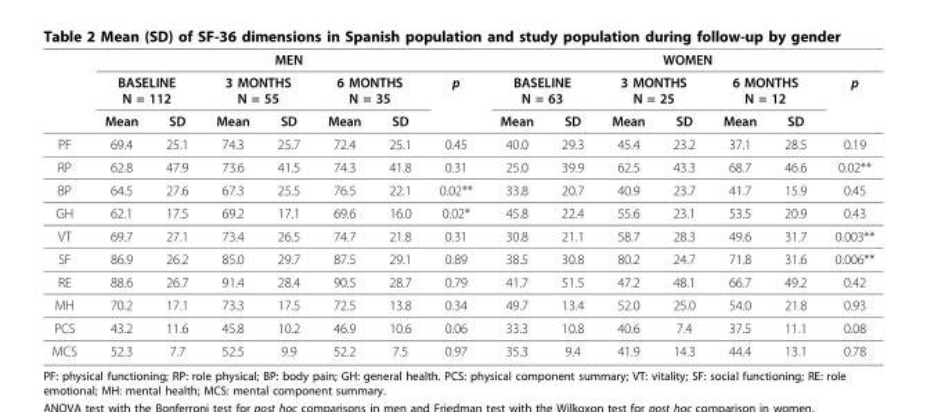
<table><thead><tr><td rowspan="3"></td><td colspan="7">MEN</td><td colspan="7">WOMEN</td></tr><tr><td colspan="2">BASELINE N = 112</td><td colspan="2">3 MONTHS N = 55</td><td colspan="2">6 MONTHS N = 35</td><td rowspan="2">p</td><td colspan="2">BASELINE N = 63</td><td colspan="2">3 MONTHS N = 25</td><td colspan="2">6 MONTHS N = 12</td><td rowspan="2">p</td></tr><tr><td>Mean</td><td>SD</td><td>Mean</td><td>SD</td><td>Mean</td><td>SD</td><td>Mean</td><td>SD</td><td>Mean</td><td>SD</td><td>Mean</td><td>SD</td></tr></thead><tbody><tr><td>PF</td><td>69.4</td><td>25.1</td><td>74.3</td><td>25.7</td><td>72.4</td><td>25.1</td><td>0.45</td><td>40.0</td><td>29.3</td><td>45.4</td><td>23.2</td><td>37.1</td><td>28.5</td><td>0.19</td></tr><tr><td>RP</td><td>62.8</td><td>47.9</td><td>73.6</td><td>41.5</td><td>74.3</td><td>41.8</td><td>0.31</td><td>25.0</td><td>39.9</td><td>62.5</td><td>43.3</td><td>68.7</td><td>46.6</td><td>0.02**</td></tr><tr><td>BP</td><td>64.5</td><td>27.6</td><td>67.3</td><td>25.5</td><td>76.5</td><td>22.1</td><td>0.02**</td><td>33.8</td><td>20.7</td><td>40.9</td><td>23.7</td><td>41.7</td><td>15.9</td><td>0.45</td></tr><tr><td>GH</td><td>62.1</td><td>17.5</td><td>69.2</td><td>17.1</td><td>69.6</td><td>16.0</td><td>0.02*</td><td>45.8</td><td>22.4</td><td>55.6</td><td>23.1</td><td>53.5</td><td>20.9</td><td>0.43</td></tr><tr><td>VT</td><td>69.7</td><td>27.1</td><td>73.4</td><td>26.5</td><td>74.7</td><td>21.8</td><td>0.31</td><td>30.8</td><td>21.1</td><td>58.7</td><td>28.3</td><td>49.6</td><td>31.7</td><td>0.003**</td></tr><tr><td>SF</td><td>86.9</td><td>26.2</td><td>85.0</td><td>29.7</td><td>87.5</td><td>29.1</td><td>0.89</td><td>38.5</td><td>30.8</td><td>80.2</td><td>24.7</td><td>71.8</td><td>31.6</td><td>0.006**</td></tr><tr><td>RE</td><td>88.6</td><td>26.7</td><td>91.4</td><td>28.4</td><td>90.5</td><td>28.7</td><td>0.79</td><td>41.7</td><td>51.5</td><td>47.2</td><td>48.1</td><td>66.7</td><td>49.2</td><td>0.42</td></tr><tr><td>MH</td><td>70.2</td><td>17.1</td><td>73.3</td><td>17.5</td><td>72.5</td><td>13.8</td><td>0.34</td><td>49.7</td><td>13.4</td><td>52.0</td><td>25.0</td><td>54.0</td><td>21.8</td><td>0.93</td></tr><tr><td>PCS</td><td>43.2</td><td>11.6</td><td>45.8</td><td>10.2</td><td>46.9</td><td>10.6</td><td>0.06</td><td>33.3</td><td>10.8</td><td>40.6</td><td>7.4</td><td>37.5</td><td>11.1</td><td>0.08</td></tr><tr><td>MCS</td><td>52.3</td><td>7.7</td><td>52.5</td><td>9.9</td><td>52.2</td><td>7.5</td><td>0.97</td><td>35.3</td><td>9.4</td><td>41.9</td><td>14.3</td><td>44.4</td><td>13.1</td><td>0.78</td></tr></tbody></table>